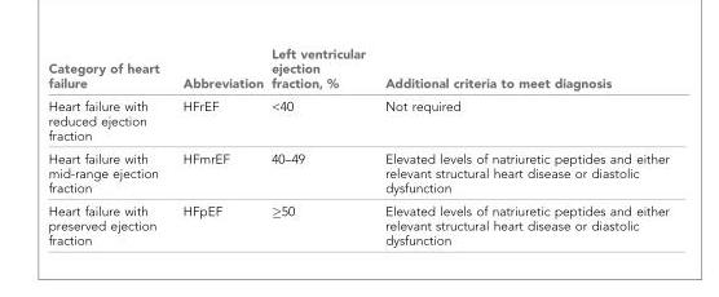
<table><thead><tr><td>Category of heart failure</td><td>Abbreviation</td><td>Left ventricular ejection fraction, %</td><td>Additional criteria to meet diagnosis</td></tr></thead><tbody><tr><td>Heart failure with reduced ejection fraction</td><td>HFrEF</td><td>&lt;40</td><td>Not required</td></tr><tr><td>Heart failure with mid-range ejection fraction</td><td>HFmrEF</td><td>40–49</td><td>Elevated levels of natriuretic peptides and either relevant structural heart disease or diastolic dysfunction</td></tr><tr><td>Heart failure with preserved ejection fraction</td><td>HFpEF</td><td>≥50</td><td>Elevated levels of natriuretic peptides and either relevant structural heart disease or diastolic dysfunction</td></tr></tbody></table>